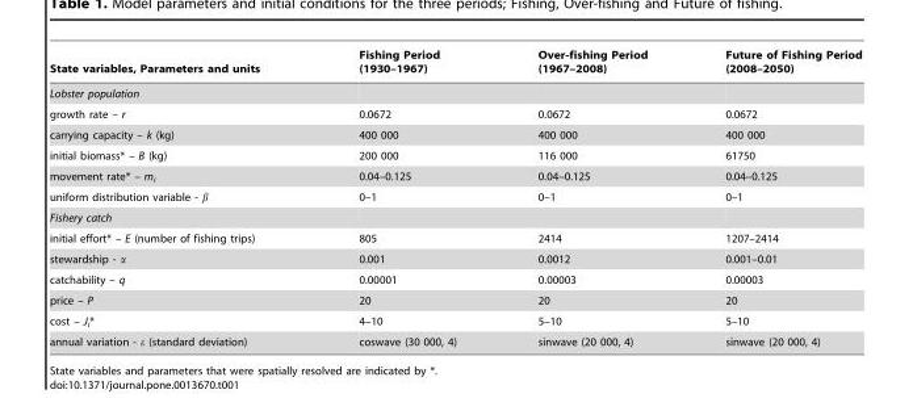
<table><thead><tr><td>State variables, Parameters and units</td><td>Fishing Period (1930–1967)</td><td>Over-fishing Period (1967–2008)</td><td>Future of Fishing Period (2008–2050)</td></tr></thead><tbody><tr><td colspan="4">Lobster population</td></tr><tr><td>growth rate – r</td><td>0.0672</td><td>0.0672</td><td>0.0672</td></tr><tr><td>carrying capacity – k (kg)</td><td>400 000</td><td>400 000</td><td>400 000</td></tr><tr><td>initial biomass* – B (kg)</td><td>200 000</td><td>116 000</td><td>61750</td></tr><tr><td>movement rate* – m<sub>i</sub></td><td>0.04–0.125</td><td>0.04–0.125</td><td>0.04–0.125</td></tr><tr><td>uniform distribution variable - b</td><td>0–1</td><td>0–1</td><td>0–1</td></tr><tr><td colspan="4">Fishery catch</td></tr><tr><td>initial effort* – E (number of fishing trips)</td><td>805</td><td>2414</td><td>1207–2414</td></tr><tr><td>stewardship - α</td><td>0.001</td><td>0.0012</td><td>0.001–0.01</td></tr><tr><td>catchability – q</td><td>0.00001</td><td>0.00003</td><td>0.00003</td></tr><tr><td>price – P</td><td>20</td><td>20</td><td>20</td></tr><tr><td>cost – J<sub>i</sub>*</td><td>4–10</td><td>5–10</td><td>5–10</td></tr><tr><td>annual variation - ε (standard deviation)</td><td>coswave (30 000, 4)</td><td>sinwave (20 000, 4)</td><td>sinwave (20 000, 4)</td></tr></tbody></table>